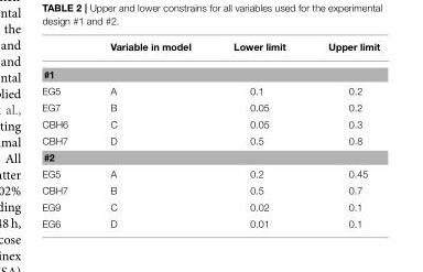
<table><thead><tr><td></td><td>Variable in model</td><td>Lower limit</td><td>Upper limit</td></tr></thead><tbody><tr><td colspan="4">#1</td></tr><tr><td>EG5</td><td>A</td><td>0.1</td><td>0.2</td></tr><tr><td>EG7</td><td>B</td><td>0.05</td><td>0.2</td></tr><tr><td>CBH6</td><td>C</td><td>0.05</td><td>0.3</td></tr><tr><td>CBH7</td><td>D</td><td>0.5</td><td>0.8</td></tr><tr><td colspan="4">#2</td></tr><tr><td>EG5</td><td>A</td><td>0.2</td><td>0.45</td></tr><tr><td>CBH7</td><td>B</td><td>0.5</td><td>0.7</td></tr><tr><td>EG9</td><td>C</td><td>0.02</td><td>0.1</td></tr><tr><td>EG6</td><td>D</td><td>0.01</td><td>0.1</td></tr></tbody></table>